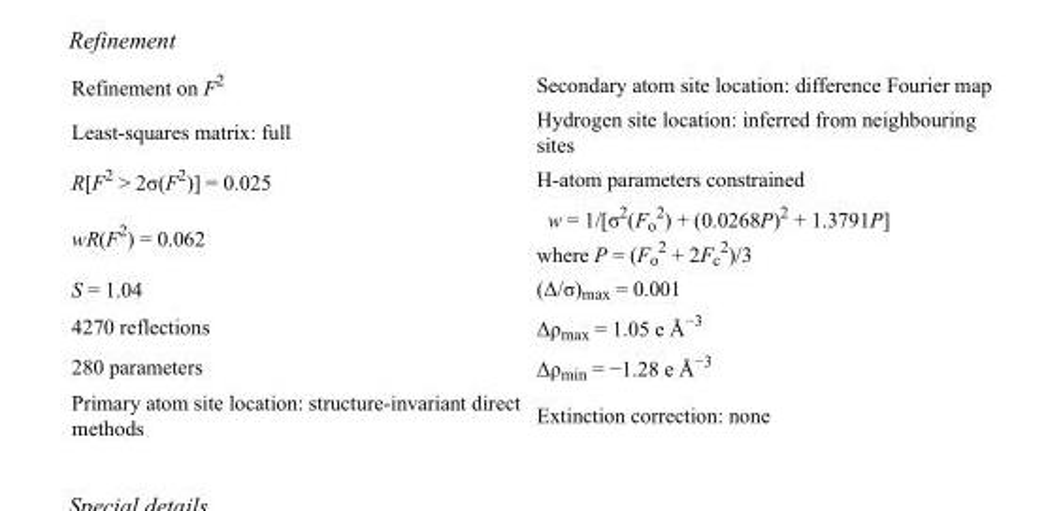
<table><tbody><tr><td>Refinement on F<sup>2</sup></td><td>Secondary atom site location: difference Fourier map</td></tr><tr><td>Least-squares matrix: full</td><td>Hydrogen site location: inferred from neighbouring sites</td></tr><tr><td>R[F<sup>2</sup> &gt; 2σ(F<sup>2</sup>)] = 0.025</td><td>H-atom parameters constrained</td></tr><tr><td>wR(F<sup>2</sup>) = 0.062</td><td>w = 1/[σ<sup>2</sup>(F<sub>o</sub> <sup>2</sup>) + (0.0268P)<sup>2</sup> + 1.3791P] where P = (F<sub>o</sub> <sup>2</sup> + 2F<sub>c</sub> <sup>2</sup>)/3</td></tr><tr><td>S = 1.04</td><td>(Δ/σ)<sub>max</sub> = 0.001</td></tr><tr><td>4270 reflections</td><td>Δρ<sub>max</sub> = 1.05 e Å<sup>−3</sup></td></tr><tr><td>280 parameters</td><td>Δρ<sub>min</sub> = −1.28 e Å<sup>−3</sup></td></tr><tr><td>Primary atom site location: structure-invariant direct methods</td><td>Extinction correction: none</td></tr></tbody></table>